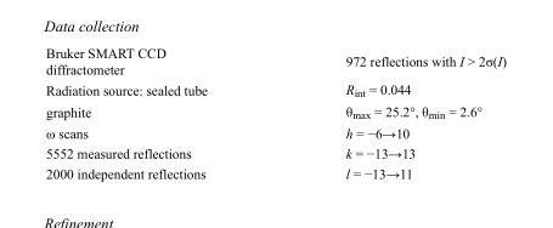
<table><tbody><tr><td>Bruker SMART CCD diffractometer</td><td>972 reflections with I &gt; 2σ(I)</td></tr><tr><td>Radiation source: sealed tube</td><td>R<sub>int</sub> = 0.044</td></tr><tr><td>graphite</td><td>θ<sub>max</sub> = 25.2°, θ<sub>min</sub> = 2.6°</td></tr><tr><td>ω scans</td><td>h = −6→10</td></tr><tr><td>5552 measured reflections</td><td>k = −13→13</td></tr><tr><td>2000 independent reflections</td><td>l = −13→11</td></tr></tbody></table>